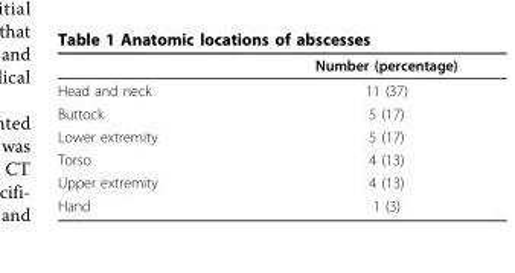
<table><thead><tr><td></td><td>Number (percentage)</td></tr></thead><tbody><tr><td>Head and neck</td><td>11 (37)</td></tr><tr><td>Buttock</td><td>5 (17)</td></tr><tr><td>Lower extremity</td><td>5 (17)</td></tr><tr><td>Torso</td><td>4 (13)</td></tr><tr><td>Upper extremity</td><td>4 (13)</td></tr><tr><td>Hand</td><td>1 (3)</td></tr></tbody></table>